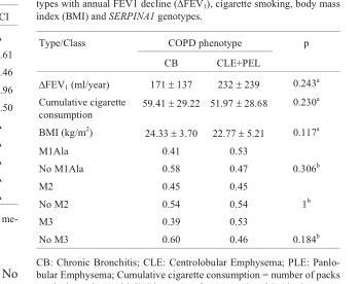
<table><thead><tr><td rowspan="2">Type/Class</td><td colspan="2">COPD phenotype</td><td rowspan="2">p</td></tr><tr><td>CB</td><td>CLE+PEL</td></tr></thead><tbody><tr><td>ΔFEV<sub>1</sub> (ml/year)</td><td>171 ± 137</td><td>232 ± 239</td><td>0.243<sup>a</sup></td></tr><tr><td>Cumulative cigarette consumption</td><td>59.41 ± 29.22</td><td>51.97 ± 28.68</td><td>0.230<sup>a</sup></td></tr><tr><td>BMI (kg/m<sup>2</sup>)</td><td>24.33 ± 3.70</td><td>22.77 ± 5.21</td><td>0.117<sup>a</sup></td></tr><tr><td>M1Ala</td><td>0.41</td><td>0.53</td><td></td></tr><tr><td>No M1Ala</td><td>0.58</td><td>0.47</td><td>0.306<sup>b</sup></td></tr><tr><td>M2</td><td>0.45</td><td>0.45</td><td></td></tr><tr><td>No M2</td><td>0.54</td><td>0.54</td><td>1<sup>b</sup></td></tr><tr><td>M3</td><td>0.39</td><td>0.53</td><td></td></tr><tr><td>No M3</td><td>0.60</td><td>0.46</td><td>0.184<sup>b</sup></td></tr></tbody></table>